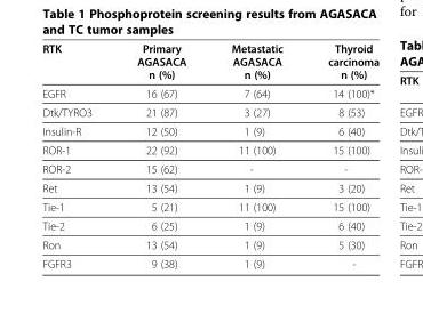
<table><thead><tr><td>RTK</td><td>Primary AGASACA n (%)</td><td>Metastatic AGASACA n (%)</td><td>Thyroid carcinoma n (%)</td></tr></thead><tbody><tr><td>EGFR</td><td>16 (67)</td><td>7 (64)</td><td>14 (100)*</td></tr><tr><td>Dtk/TYRO3</td><td>21 (87)</td><td>3 (27)</td><td>8 (53)</td></tr><tr><td>Insulin-R</td><td>12 (50)</td><td>1 (9)</td><td>6 (40)</td></tr><tr><td>ROR-1</td><td>22 (92)</td><td>11 (100)</td><td>15 (100)</td></tr><tr><td>ROR-2</td><td>15 (62)</td><td>-</td><td>-</td></tr><tr><td>Ret</td><td>13 (54)</td><td>1 (9)</td><td>3 (20)</td></tr><tr><td>Tie-1</td><td>5 (21)</td><td>11 (100)</td><td>15 (100)</td></tr><tr><td>Tie-2</td><td>6 (25)</td><td>1 (9)</td><td>6 (40)</td></tr><tr><td>Ron</td><td>13 (54)</td><td>1 (9)</td><td>5 (30)</td></tr><tr><td>FGFR3</td><td>9 (38)</td><td>1 (9)</td><td>-</td></tr></tbody></table>